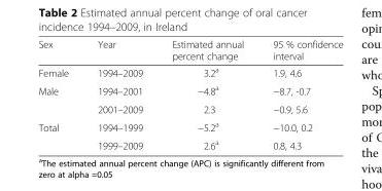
<table><thead><tr><td>Sex</td><td>Year</td><td>Estimated annual percent change</td><td>95 % confidence interval</td></tr></thead><tbody><tr><td>Female</td><td>1994–2009</td><td>3.2<sup>a</sup></td><td>1.9, 4.6</td></tr><tr><td rowspan="2">Male</td><td>1994–2001</td><td>−4.8<sup>a</sup></td><td>−8.7, -0.7</td></tr><tr><td>2001–2009</td><td>2.3</td><td>−0.9, 5.6</td></tr><tr><td rowspan="2">Total</td><td>1994–1999</td><td>−5.2<sup>a</sup></td><td>−10.0, 0.2</td></tr><tr><td>1999–2009</td><td>2.6<sup>a</sup></td><td>0.8, 4.3</td></tr></tbody></table>